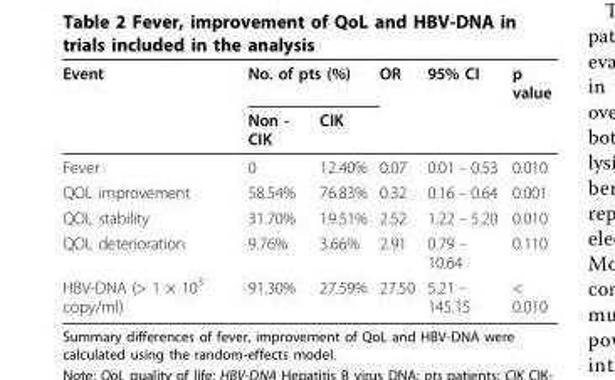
<table><thead><tr><td rowspan="2">Event</td><td colspan="2">No. of pts (%)</td><td rowspan="2">OR</td><td rowspan="2">95% CI</td><td rowspan="2">p value</td></tr><tr><td>Non - CIK</td><td>CIK</td></tr></thead><tbody><tr><td>Fever</td><td>0</td><td>12.40%</td><td>0.07</td><td>0.01 - 0.53</td><td>0.010</td></tr><tr><td>QOL improvement</td><td>58.54%</td><td>76.83%</td><td>0.32</td><td>0.16 - 0.64</td><td>0.001</td></tr><tr><td>QOL stability</td><td>31.70%</td><td>19.51%</td><td>2.52</td><td>1.22 - 5.20</td><td>0.010</td></tr><tr><td>QOL deterioration</td><td>9.76%</td><td>3.66%</td><td>2.91</td><td>0.79 - 10.64</td><td>0.110</td></tr><tr><td>HBV-DNA (&gt; 1 × 10<sup>3</sup> copy/ml)</td><td>91.30%</td><td>27.59%</td><td>27.50</td><td>5.21 - 145.15</td><td>&lt; 0.010</td></tr></tbody></table>